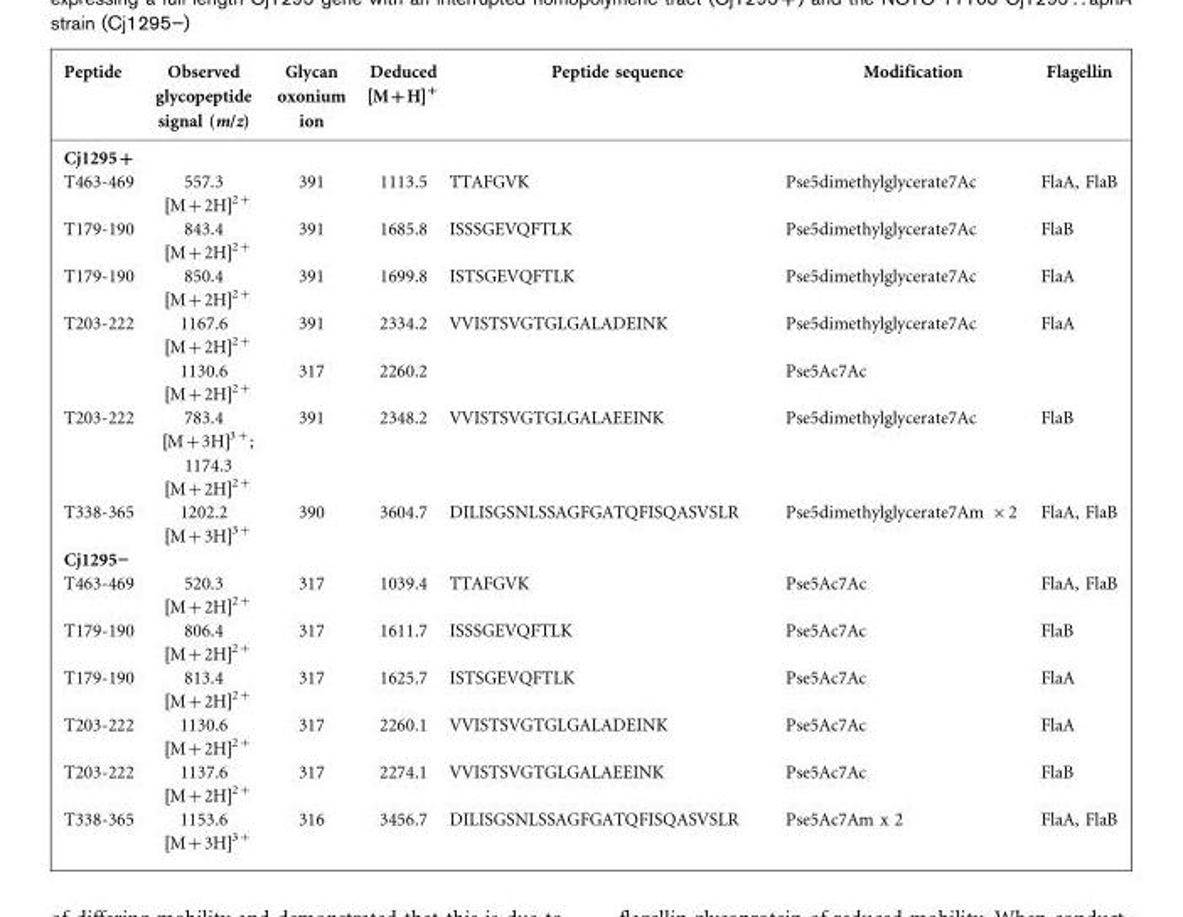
<table><thead><tr><td>Peptide</td><td>Observed glycopeptide signal (m/z)</td><td>Glycan oxonium ion</td><td>Deduced [M+H]<sup>+</sup></td><td>Peptide sequence</td><td>Modification</td><td>Flagellin</td></tr></thead><tbody><tr><td colspan="7">Cj1295+</td></tr><tr><td>T463-469</td><td>557.3 [M+2H]<sup>2+</sup></td><td>391</td><td>1113.5</td><td>TTAFGVK</td><td>Pse5dimethylglycerate7Ac</td><td>FlaA, FlaB</td></tr><tr><td>T179-190</td><td>843.4 [M+2H]<sup>2+</sup></td><td>391</td><td>1685.8</td><td>ISSSGEVQFTLK</td><td>Pse5dimethylglycerate7Ac</td><td>FlaB</td></tr><tr><td>T179-190</td><td>850.4 [M+2H]<sup>2+</sup></td><td>391</td><td>1699.8</td><td>ISTSGEVQFTLK</td><td>Pse5dimethylglycerate7Ac</td><td>FlaA</td></tr><tr><td rowspan="2">T203-222</td><td>1167.6 [M+2H]<sup>2+</sup></td><td>391</td><td>2334.2</td><td>VVISTSVGTGLGALADEINK</td><td>Pse5dimethylglycerate7Ac</td><td>FlaA</td></tr><tr><td>1130.6 [M+2H]<sup>2+</sup></td><td>317</td><td>2260.2</td><td></td><td>Pse5Ac7Ac</td><td></td></tr><tr><td>T203-222</td><td>783.4 [M+3H]<sup>3+</sup>; 1174.3 [M+2H]<sup>2+</sup></td><td>391</td><td>2348.2</td><td>VVISTSVGTGLGALAEEINK</td><td>Pse5dimethylglycerate7Ac</td><td>FlaB</td></tr><tr><td>T338-365</td><td>1202.2 [M+3H]<sup>3+</sup></td><td>390</td><td>3604.7</td><td>DILISGSNLSSAGFGATQFISQASVSLR</td><td>Pse5dimethylglycerate7Am ×2</td><td>FlaA, FlaB</td></tr><tr><td colspan="7">Cj1295”</td></tr><tr><td>T463-469</td><td>520.3 [M+2H]<sup>2+</sup></td><td>317</td><td>1039.4</td><td>TTAFGVK</td><td>Pse5Ac7Ac</td><td>FlaA, FlaB</td></tr><tr><td>T179-190</td><td>806.4 [M+2H]<sup>2+</sup></td><td>317</td><td>1611.7</td><td>ISSSGEVQFTLK</td><td>Pse5Ac7Ac</td><td>FlaB</td></tr><tr><td>T179-190</td><td>813.4 [M+2H]<sup>2+</sup></td><td>317</td><td>1625.7</td><td>ISTSGEVQFTLK</td><td>Pse5Ac7Ac</td><td>FlaA</td></tr><tr><td>T203-222</td><td>1130.6 [M+2H]<sup>2+</sup></td><td>317</td><td>2260.1</td><td>VVISTSVGTGLGALADEINK</td><td>Pse5Ac7Ac</td><td>FlaA</td></tr><tr><td>T203-222</td><td>1137.6 [M+2H]<sup>2+</sup></td><td>317</td><td>2274.1</td><td>VVISTSVGTGLGALAEEINK</td><td>Pse5Ac7Ac</td><td>FlaB</td></tr><tr><td>T338-365</td><td>1153.6 [M+3H]<sup>3+</sup></td><td>316</td><td>3456.7</td><td>DILISGSNLSSAGFGATQFISQASVSLR</td><td>Pse5Ac7Am x 2</td><td>FlaA, FlaB</td></tr></tbody></table>